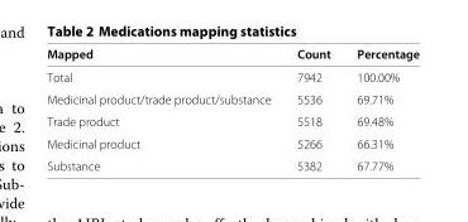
<table><thead><tr><td>Mapped</td><td>Count</td><td>Percentage</td></tr></thead><tbody><tr><td>Total</td><td>7942</td><td>100.00%</td></tr><tr><td>Medicinal product/trade product/substance</td><td>5536</td><td>69.71%</td></tr><tr><td>Trade product</td><td>5518</td><td>69.48%</td></tr><tr><td>Medicinal product</td><td>5266</td><td>66.31%</td></tr><tr><td>Substance</td><td>5382</td><td>67.77%</td></tr></tbody></table>